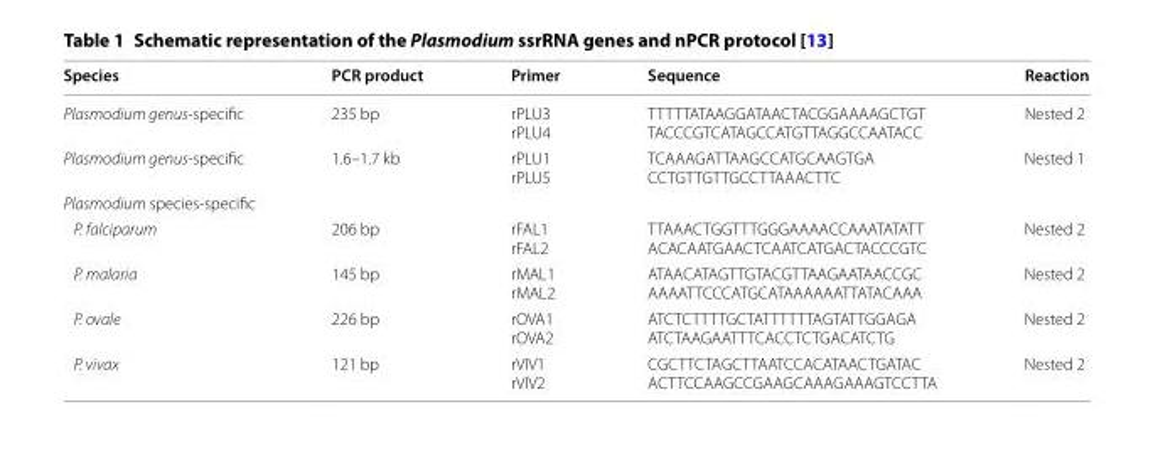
<table><thead><tr><td>Species</td><td>PCR product</td><td>Primer</td><td>Sequence</td><td>Reaction</td></tr></thead><tbody><tr><td>Plasmodium genus-specific</td><td>235 bp</td><td>rPLU3 rPLU4</td><td>TTTTTATAAGGATAACTACGGAAAAGCTGT TACCCGTCATAGCCATGTTAGGCCAATACC</td><td>Nested 2</td></tr><tr><td>Plasmodium genus-specific</td><td>1.6–1.7 kb</td><td>rPLU1 rPLU5</td><td>TCAAAGATTAAGCCATGCAAGTGA CCTGTTGTTGCCTTAAACTTC</td><td>Nested 1</td></tr><tr><td colspan="5">Plasmodium species-specific</td></tr><tr><td>P. falciparum</td><td>206 bp</td><td>rFAL1 rFAL2</td><td>TTAAACTGGTTTGGGAAAACCAAATATATT ACACAATGAACTCAATCATGACTACCCGTC</td><td>Nested 2</td></tr><tr><td>P. malaria</td><td>145 bp</td><td>rMAL1 rMAL2</td><td>ATAACATAGTTGTACGTTAAGAATAACCGC AAAATTCCCATGCATAAAAAATTATACAAA</td><td>Nested 2</td></tr><tr><td>P. ovale</td><td>226 bp</td><td>rOVA1 rOVA2</td><td>ATCTCTTTTGCTATTTTTTAGTATTGGAGA ATCTAAGAATTTCACCTCTGACATCTG</td><td>Nested 2</td></tr><tr><td>P. vivax</td><td>121 bp</td><td>rVIV1 rVIV2</td><td>CGCTTCTAGCTTAATCCACATAACTGATAC ACTTCCAAGCCGAAGCAAAGAAAGTCCTTA</td><td>Nested 2</td></tr></tbody></table>